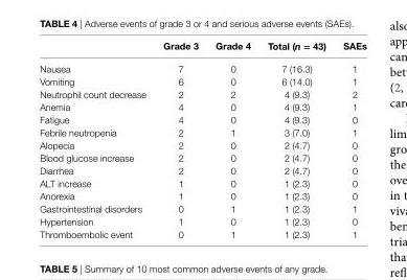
<table><thead><tr><td></td><td>Grade 3</td><td>Grade 4</td><td>Total (n = 43)</td><td>SaEs</td></tr></thead><tbody><tr><td>Nausea</td><td>7</td><td>0</td><td>7 (16.3)</td><td>1</td></tr><tr><td>Vomiting</td><td>6</td><td>0</td><td>6 (14.0)</td><td>1</td></tr><tr><td>Neutrophil count decrease</td><td>2</td><td>2</td><td>4 (9.3)</td><td>2</td></tr><tr><td>Anemia</td><td>4</td><td>0</td><td>4 (9.3)</td><td>1</td></tr><tr><td>Fatigue</td><td>4</td><td>0</td><td>4 (9.3)</td><td>0</td></tr><tr><td>Febrile neutropenia</td><td>2</td><td>1</td><td>3 (7.0)</td><td>1</td></tr><tr><td>Alopecia</td><td>2</td><td>0</td><td>2 (4.7)</td><td>0</td></tr><tr><td>Blood glucose increase</td><td>2</td><td>0</td><td>2 (4.7)</td><td>0</td></tr><tr><td>Diarrhea</td><td>2</td><td>0</td><td>2 (4.7)</td><td>0</td></tr><tr><td>ALT increase</td><td>1</td><td>0</td><td>1 (2.3)</td><td>0</td></tr><tr><td>Anorexia</td><td>1</td><td>0</td><td>1 (2.3)</td><td>0</td></tr><tr><td>Gastrointestinal disorders</td><td>0</td><td>1</td><td>1 (2.3)</td><td>1</td></tr><tr><td>Hypertension</td><td>1</td><td>0</td><td>1 (2.3)</td><td>0</td></tr><tr><td>Thromboembolic event</td><td>0</td><td>1</td><td>1 (2.3)</td><td>1</td></tr></tbody></table>